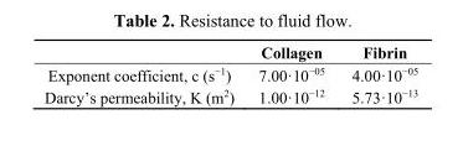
<table><thead><tr><td></td><td>Collagen</td><td>Fibrin</td></tr></thead><tbody><tr><td>Exponent coefficient, c (s<sup>−1</sup>)</td><td>7.00·10<sup>−05</sup></td><td>4.00·10<sup>−05</sup></td></tr><tr><td>Darcy’s permeability, K (m<sup>2</sup>)</td><td>1.00·10<sup>−12</sup></td><td>5.73·10<sup>−13</sup></td></tr></tbody></table>